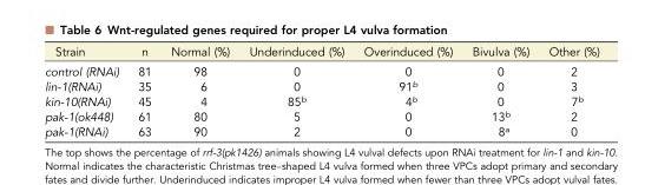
<table><thead><tr><td>Strain</td><td>n</td><td>Normal (%)</td><td>Underinduced (%)</td><td>Overinduced (%)</td><td>Bivulva (%)</td><td>Other (%)</td></tr></thead><tbody><tr><td>control (RNAi)</td><td>81</td><td>98</td><td>0</td><td>0</td><td>0</td><td>2</td></tr><tr><td>lin-1(RNAi)</td><td>35</td><td>6</td><td>0</td><td>91<sup>b</sup></td><td>0</td><td>3</td></tr><tr><td>kin-10(RNAi)</td><td>45</td><td>4</td><td>85<sup>b</sup></td><td>4<sup>b</sup></td><td>0</td><td>7<sup>b</sup></td></tr><tr><td>pak-1(ok448)</td><td>61</td><td>80</td><td>5</td><td>0</td><td>13<sup>b</sup></td><td>2</td></tr><tr><td>pak-1(RNAi)</td><td>63</td><td>90</td><td>2</td><td>0</td><td>8<sup>a</sup></td><td>0</td></tr></tbody></table>